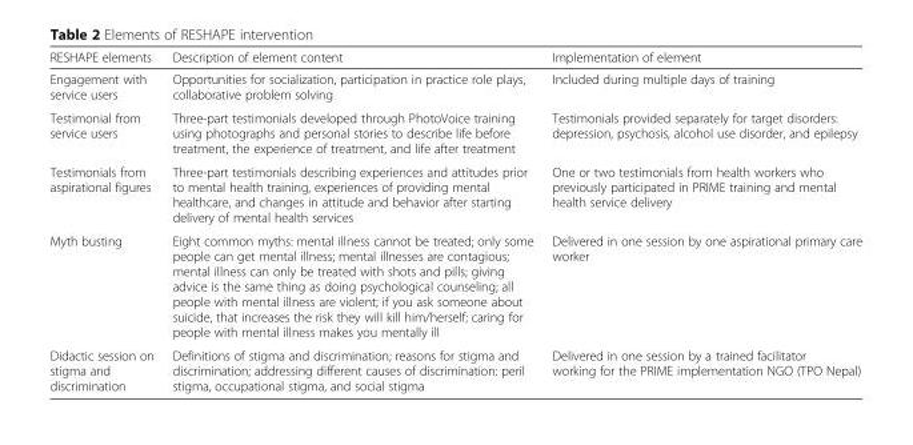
<table><thead><tr><td>RESHAPE elements</td><td>Description of element content</td><td>Implementation of element</td></tr></thead><tbody><tr><td>Engagement with service users</td><td>Opportunities for socialization, participation in practice role plays, collaborative problem solving</td><td>Included during multiple days of training</td></tr><tr><td>Testimonial from service users</td><td>Three-part testimonials developed through PhotoVoice training using photographs and personal stories to describe life before treatment, the experience of treatment, and life after treatment</td><td>Testimonials provided separately for target disorders: depression, psychosis, alcohol use disorder, and epilepsy</td></tr><tr><td>Testimonials from aspirational figures</td><td>Three-part testimonials describing experiences and attitudes prior to mental health training, experiences of providing mental healthcare, and changes in attitude and behavior after starting delivery of mental health services</td><td>One or two testimonials from health workers who previously participated in PRIME training and mental health service delivery</td></tr><tr><td>Myth busting</td><td>Eight common myths: mental illness cannot be treated; only some people can get mental illness; mental illnesses are contagious; mental illness can only be treated with shots and pills; giving advice is the same thing as doing psychological counseling; all people with mental illness are violent; if you ask someone about suicide, that increases the risk they will kill him/herself; caring for people with mental illness makes you mentally ill</td><td>Delivered in one session by one aspirational primary care worker</td></tr><tr><td>Didactic session on stigma and discrimination</td><td>Definitions of stigma and discrimination; reasons for stigma and discrimination; addressing different causes of discrimination: peril stigma, occupational stigma, and social stigma</td><td>Delivered in one session by a trained facilitator working for the PRIME implementation NGO (TPO Nepal)</td></tr></tbody></table>